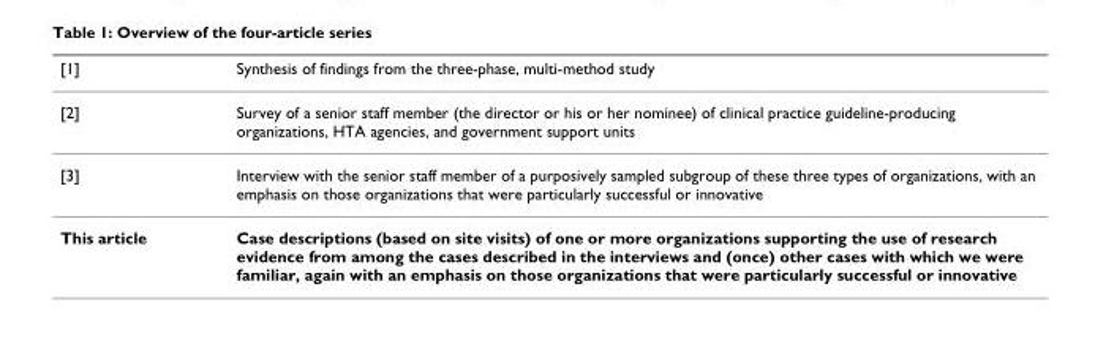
<table><thead><tr><td>[1]</td><td>Synthesis of findings from the three-phase, multi-method study</td></tr></thead><tbody><tr><td>[2]</td><td>Survey of a senior staff member (the director or his or her nominee) of clinical practice guideline-producing organizations, HTA agencies, and government support units</td></tr><tr><td>[3]</td><td>Interview with the senior staff member of a purposively sampled subgroup of these three types of organizations, with an emphasis on those organizations that were particularly successful or innovative</td></tr><tr><td>This article</td><td>Case descriptions (based on site visits) of one or more organizations supporting the use of research evidence from among the cases described in the interviews and (once) other cases with which we were familiar, again with an emphasis on those organizations that were particularly successful or innovative</td></tr></tbody></table>